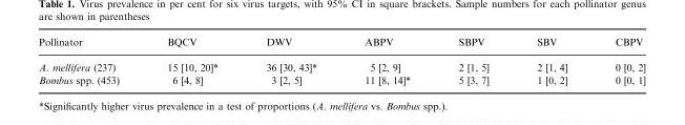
<table><thead><tr><td>Pollinator</td><td>BQCV</td><td>DWV</td><td>ABPV</td><td>SBPV</td><td>SBV</td><td>CBPV</td></tr></thead><tbody><tr><td>A. mellifera (237)</td><td>15 [10, 20]*</td><td>36 [30, 43]*</td><td>5 [2, 9]</td><td>2 [1, 5]</td><td>2 [1, 4]</td><td>0 [0, 2]</td></tr><tr><td>Bombus spp. (453)</td><td>6 [4, 8]</td><td>3 [2, 5]</td><td>11 [8, 14]*</td><td>5 [3, 7]</td><td>1 [0, 2]</td><td>0 [0, 1]</td></tr></tbody></table>